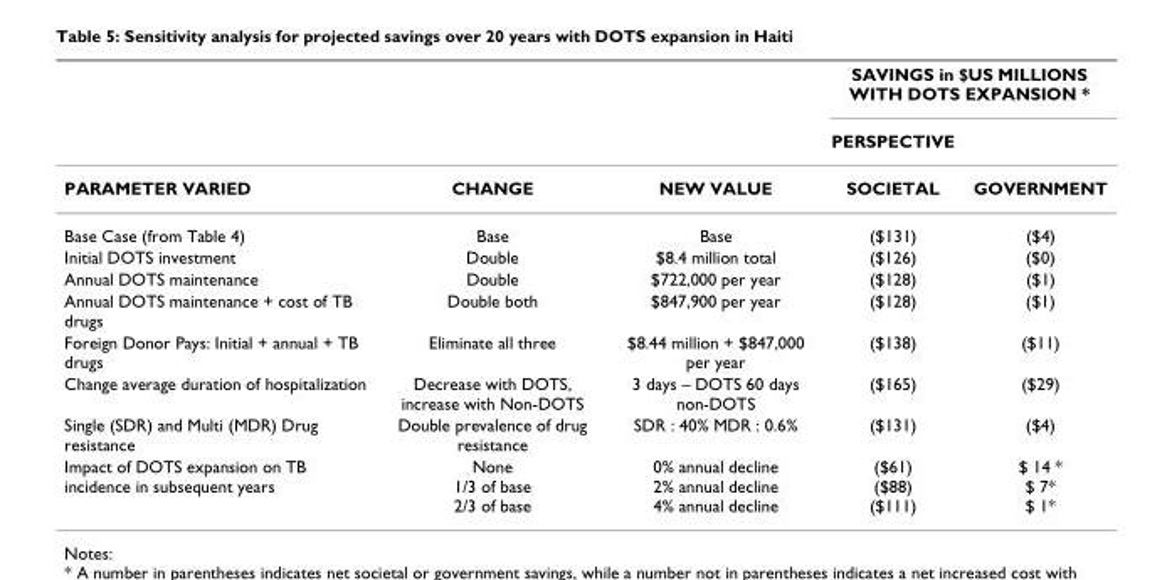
<table><thead><tr><td rowspan="2"></td><td rowspan="2"></td><td rowspan="2"></td><td colspan="2">SAVINGS in $US MILLIONS WITH DOTS EXPANSION *</td></tr><tr><td>PERSPECTIVE</td><td></td></tr></thead><tbody><tr><td>PARAMETER VARIED</td><td>CHANGE</td><td>NEW VALUE</td><td>SOCIETAL</td><td>GOVERNMENT</td></tr><tr><td>Base Case (from Table 4)</td><td>Base</td><td>Base</td><td>($131)</td><td>($4)</td></tr><tr><td>Initial DOTS investment</td><td>Double</td><td>$8.4 million total</td><td>($126)</td><td>($0)</td></tr><tr><td>Annual DOTS maintenance</td><td>Double</td><td>$722,000 per year</td><td>($128)</td><td>($1)</td></tr><tr><td>Annual DOTS maintenance + cost of TB drugs</td><td>Double both</td><td>$847,900 per year</td><td>($128)</td><td>($1)</td></tr><tr><td>Foreign Donor Pays: Initial + annual + TB drugs</td><td>Eliminate all three</td><td>$8.44 million + $847,000 per year</td><td>($138)</td><td>($11)</td></tr><tr><td>Change average duration of hospitalization</td><td>Decrease with DOTS, increase with Non-DOTS</td><td>3 days – DOTS 60 days non-DOTS</td><td>($165)</td><td>($29)</td></tr><tr><td>Single (SDR) and Multi (MDR) Drug resistance</td><td>Double prevalence of drug resistance</td><td>SDR : 40% MDR : 0.6%</td><td>($131)</td><td>($4)</td></tr><tr><td>Impact of DOTS expansion on TB incidence in subsequent years</td><td>None 1/3 of base 2/3 of base</td><td>0% annual decline 2% annual decline 4% annual decline</td><td>($61) ($88) ($111)</td><td>$ 14 * $ 7* $ 1*</td></tr></tbody></table>